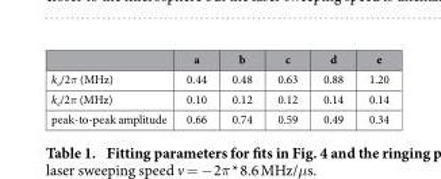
<table><thead><tr><td></td><td>a</td><td>b</td><td>c</td><td>d</td><td>e</td></tr></thead><tbody><tr><td>k<sub>o</sub>/2π (MHz)</td><td>0.44</td><td>0.48</td><td>0.63</td><td>0.88</td><td>1.20</td></tr><tr><td>k<sub>e</sub>/2π (MHz)</td><td>0.10</td><td>0.12</td><td>0.12</td><td>0.14</td><td>0.14</td></tr><tr><td>peak-to-peak amplitude</td><td>0.66</td><td>0.74</td><td>0.59</td><td>0.49</td><td>0.34</td></tr></tbody></table>